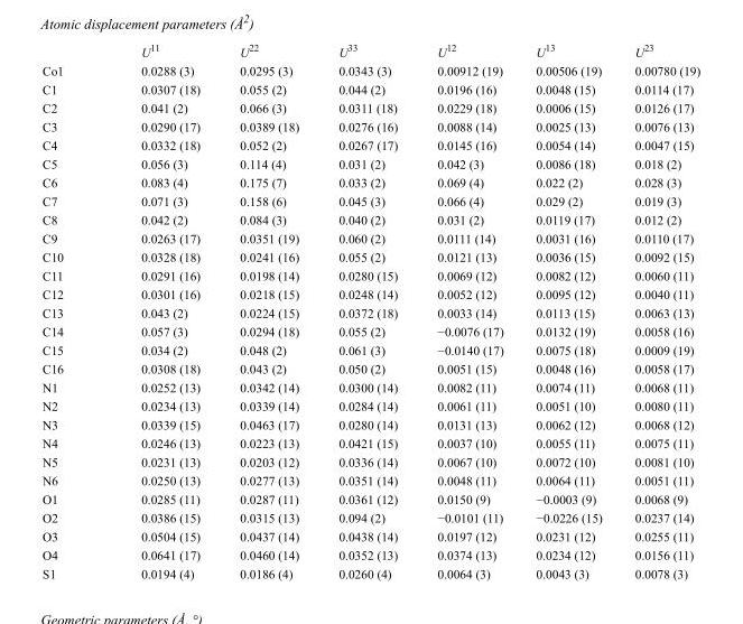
<table><thead><tr><td></td><td>U<sup>11</sup></td><td>U<sup>22</sup></td><td>U<sup>33</sup></td><td>U<sup>12</sup></td><td>U<sup>13</sup></td><td>U<sup>23</sup></td></tr></thead><tbody><tr><td>Co1</td><td>0.0288 (3)</td><td>0.0295 (3)</td><td>0.0343 (3)</td><td>0.00912 (19)</td><td>0.00506 (19)</td><td>0.00780 (19)</td></tr><tr><td>C1</td><td>0.0307 (18)</td><td>0.055 (2)</td><td>0.044 (2)</td><td>0.0196 (16)</td><td>0.0048 (15)</td><td>0.0114 (17)</td></tr><tr><td>C2</td><td>0.041 (2)</td><td>0.066 (3)</td><td>0.0311 (18)</td><td>0.0229 (18)</td><td>0.0006 (15)</td><td>0.0126 (17)</td></tr><tr><td>C3</td><td>0.0290 (17)</td><td>0.0389 (18)</td><td>0.0276 (16)</td><td>0.0088 (14)</td><td>0.0025 (13)</td><td>0.0076 (13)</td></tr><tr><td>C4</td><td>0.0332 (18)</td><td>0.052 (2)</td><td>0.0267 (17)</td><td>0.0145 (16)</td><td>0.0054 (14)</td><td>0.0047 (15)</td></tr><tr><td>C5</td><td>0.056 (3)</td><td>0.114 (4)</td><td>0.031 (2)</td><td>0.042 (3)</td><td>0.0086 (18)</td><td>0.018 (2)</td></tr><tr><td>C6</td><td>0.083 (4)</td><td>0.175 (7)</td><td>0.033 (2)</td><td>0.069 (4)</td><td>0.022 (2)</td><td>0.028 (3)</td></tr><tr><td>C7</td><td>0.071 (3)</td><td>0.158 (6)</td><td>0.045 (3)</td><td>0.066 (4)</td><td>0.029 (2)</td><td>0.019 (3)</td></tr><tr><td>C8</td><td>0.042 (2)</td><td>0.084 (3)</td><td>0.040 (2)</td><td>0.031 (2)</td><td>0.0119 (17)</td><td>0.012 (2)</td></tr><tr><td>C9</td><td>0.0263 (17)</td><td>0.0351 (19)</td><td>0.060 (2)</td><td>0.0111 (14)</td><td>0.0031 (16)</td><td>0.0110 (17)</td></tr><tr><td>C10</td><td>0.0328 (18)</td><td>0.0241 (16)</td><td>0.055 (2)</td><td>0.0121 (13)</td><td>0.0036 (15)</td><td>0.0092 (15)</td></tr><tr><td>C11</td><td>0.0291 (16)</td><td>0.0198 (14)</td><td>0.0280 (15)</td><td>0.0069 (12)</td><td>0.0082 (12)</td><td>0.0060 (11)</td></tr><tr><td>C12</td><td>0.0301 (16)</td><td>0.0218 (15)</td><td>0.0248 (14)</td><td>0.0052 (12)</td><td>0.0095 (12)</td><td>0.0040 (11)</td></tr><tr><td>C13</td><td>0.043 (2)</td><td>0.0224 (15)</td><td>0.0372 (18)</td><td>0.0033 (14)</td><td>0.0113 (15)</td><td>0.0063 (13)</td></tr><tr><td>C14</td><td>0.057 (3)</td><td>0.0294 (18)</td><td>0.055 (2)</td><td>−0.0076 (17)</td><td>0.0132 (19)</td><td>0.0058 (16)</td></tr><tr><td>C15</td><td>0.034 (2)</td><td>0.048 (2)</td><td>0.061 (3)</td><td>−0.0140 (17)</td><td>0.0075 (18)</td><td>0.0009 (19)</td></tr><tr><td>C16</td><td>0.0308 (18)</td><td>0.043 (2)</td><td>0.050 (2)</td><td>0.0051 (15)</td><td>0.0048 (16)</td><td>0.0058 (17)</td></tr><tr><td>N1</td><td>0.0252 (13)</td><td>0.0342 (14)</td><td>0.0300 (14)</td><td>0.0082 (11)</td><td>0.0074 (11)</td><td>0.0068 (11)</td></tr><tr><td>N2</td><td>0.0234 (13)</td><td>0.0339 (14)</td><td>0.0284 (14)</td><td>0.0061 (11)</td><td>0.0051 (10)</td><td>0.0080 (11)</td></tr><tr><td>N3</td><td>0.0339 (15)</td><td>0.0463 (17)</td><td>0.0280 (14)</td><td>0.0131 (13)</td><td>0.0062 (12)</td><td>0.0068 (12)</td></tr><tr><td>N4</td><td>0.0246 (13)</td><td>0.0223 (13)</td><td>0.0421 (15)</td><td>0.0037 (10)</td><td>0.0055 (11)</td><td>0.0075 (11)</td></tr><tr><td>N5</td><td>0.0231 (13)</td><td>0.0203 (12)</td><td>0.0336 (14)</td><td>0.0067 (10)</td><td>0.0072 (10)</td><td>0.0081 (10)</td></tr><tr><td>N6</td><td>0.0250 (13)</td><td>0.0277 (13)</td><td>0.0351 (14)</td><td>0.0048 (11)</td><td>0.0064 (11)</td><td>0.0051 (11)</td></tr><tr><td>O1</td><td>0.0285 (11)</td><td>0.0287 (11)</td><td>0.0361 (12)</td><td>0.0150 (9)</td><td>−0.0003 (9)</td><td>0.0068 (9)</td></tr><tr><td>O2</td><td>0.0386 (15)</td><td>0.0315 (13)</td><td>0.094 (2)</td><td>−0.0101 (11)</td><td>−0.0226 (15)</td><td>0.0237 (14)</td></tr><tr><td>O3</td><td>0.0504 (15)</td><td>0.0437 (14)</td><td>0.0438 (14)</td><td>0.0197 (12)</td><td>0.0231 (12)</td><td>0.0255 (11)</td></tr><tr><td>O4</td><td>0.0641 (17)</td><td>0.0460 (14)</td><td>0.0352 (13)</td><td>0.0374 (13)</td><td>0.0234 (12)</td><td>0.0156 (11)</td></tr><tr><td>S1</td><td>0.0194 (4)</td><td>0.0186 (4)</td><td>0.0260 (4)</td><td>0.0064 (3)</td><td>0.0043 (3)</td><td>0.0078 (3)</td></tr></tbody></table>